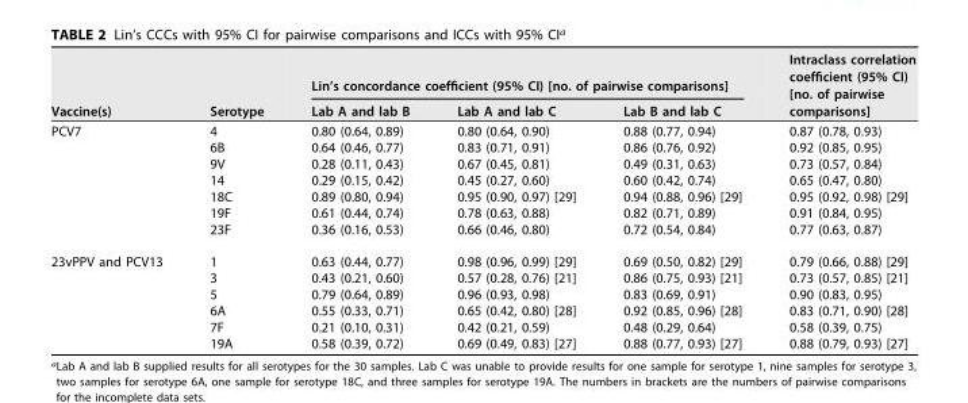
<table><thead><tr><td rowspan="2">Vaccine(s)</td><td rowspan="2">Serotype</td><td colspan="3">Lin’s concordance coefficient (95% CI) [no. of pairwise comparisons]</td><td rowspan="2">Intraclass correlation coefficient (95% CI) [no. of pairwise comparisons]</td></tr><tr><td>Lab A and lab B</td><td>Lab A and lab C</td><td>Lab B and lab C</td></tr></thead><tbody><tr><td rowspan="7">PCV7</td><td>4</td><td>0.80 (0.64, 0.89)</td><td>0.80 (0.64, 0.90)</td><td>0.88 (0.77, 0.94)</td><td>0.87 (0.78, 0.93)</td></tr><tr><td>6B</td><td>0.64 (0.46, 0.77)</td><td>0.83 (0.71, 0.91)</td><td>0.86 (0.76, 0.92)</td><td>0.92 (0.85, 0.95)</td></tr><tr><td>9V</td><td>0.28 (0.11, 0.43)</td><td>0.67 (0.45, 0.81)</td><td>0.49 (0.31, 0.63)</td><td>0.73 (0.57, 0.84)</td></tr><tr><td>14</td><td>0.29 (0.15, 0.42)</td><td>0.45 (0.27, 0.60)</td><td>0.60 (0.42, 0.74)</td><td>0.65 (0.47, 0.80)</td></tr><tr><td>18C</td><td>0.89 (0.80, 0.94)</td><td>0.95 (0.90, 0.97) [29]</td><td>0.94 (0.88, 0.96) [29]</td><td>0.95 (0.92, 0.98) [29]</td></tr><tr><td>19F</td><td>0.61 (0.44, 0.74)</td><td>0.78 (0.63, 0.88)</td><td>0.82 (0.71, 0.89)</td><td>0.91 (0.84, 0.95)</td></tr><tr><td>23F</td><td>0.36 (0.16, 0.53)</td><td>0.66 (0.46, 0.80)</td><td>0.72 (0.54, 0.84)</td><td>0.77 (0.63, 0.87)</td></tr><tr><td rowspan="6">23vPPV and PCV13</td><td>1</td><td>0.63 (0.44, 0.77)</td><td>0.98 (0.96, 0.99) [29]</td><td>0.69 (0.50, 0.82) [29]</td><td>0.79 (0.66, 0.88) [29]</td></tr><tr><td>3</td><td>0.43 (0.21, 0.60)</td><td>0.57 (0.28, 0.76) [21]</td><td>0.86 (0.75, 0.93) [21]</td><td>0.73 (0.57, 0.85) [21]</td></tr><tr><td>5</td><td>0.79 (0.64, 0.89)</td><td>0.96 (0.93, 0.98)</td><td>0.83 (0.69, 0.91)</td><td>0.90 (0.83, 0.95)</td></tr><tr><td>6A</td><td>0.55 (0.33, 0.71)</td><td>0.65 (0.42, 0.80) [28]</td><td>0.92 (0.85, 0.96) [28]</td><td>0.83 (0.71, 0.90) [28]</td></tr><tr><td>7F</td><td>0.21 (0.10, 0.31)</td><td>0.42 (0.21, 0.59)</td><td>0.48 (0.29, 0.64)</td><td>0.58 (0.39, 0.75)</td></tr><tr><td>19A</td><td>0.58 (0.39, 0.72)</td><td>0.69 (0.49, 0.83) [27]</td><td>0.88 (0.77, 0.93) [27]</td><td>0.88 (0.79, 0.93) [27]</td></tr></tbody></table>